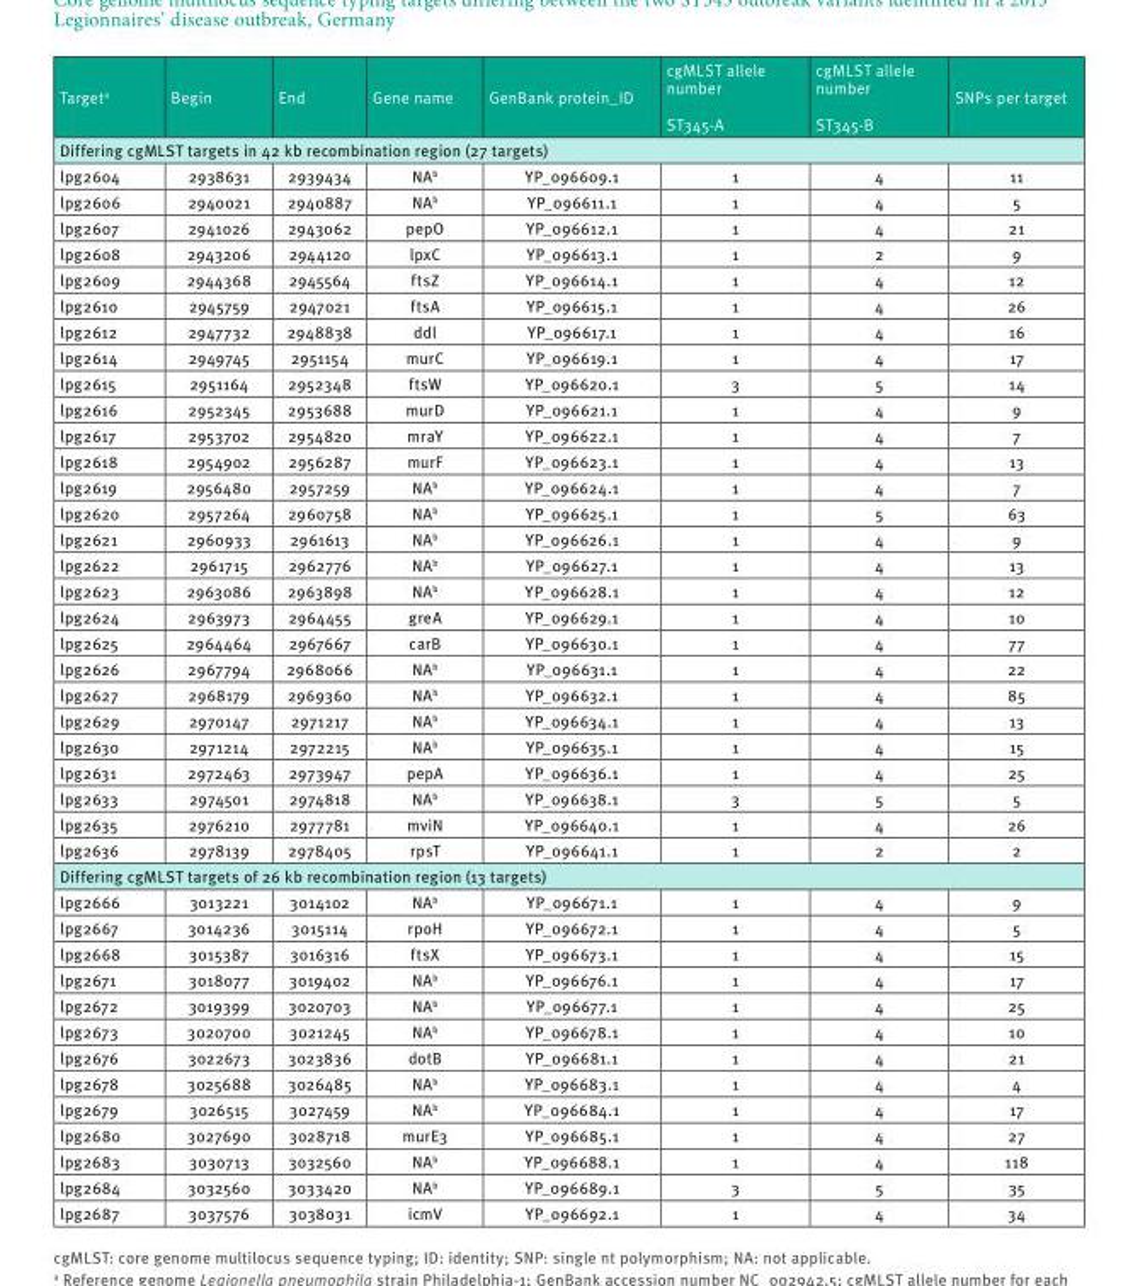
<table><thead><tr><td>Target<sup>a</sup></td><td>Begin</td><td>End</td><td>Gene name</td><td>GenBank protein_ID</td><td>cgMLST allele number ST345-A</td><td>cgMLST allele number ST345-B</td><td>SNPs per target</td></tr></thead><tbody><tr><td colspan="8">Differing cgMLST targets in 42 kb recombination region (27 targets)</td></tr><tr><td>lpg2604</td><td>2938631</td><td>2939434</td><td>NA<sup>b</sup></td><td>YP_096609.1</td><td>1</td><td>4</td><td>11</td></tr><tr><td>lpg2606</td><td>2940021</td><td>2940887</td><td>NA<sup>b</sup></td><td>YP_096611.1</td><td>1</td><td>4</td><td>5</td></tr><tr><td>lpg2607</td><td>2941026</td><td>2943062</td><td>pepO</td><td>YP_096612.1</td><td>1</td><td>4</td><td>21</td></tr><tr><td>lpg2608</td><td>2943206</td><td>2944120</td><td>lpxC</td><td>YP_096613.1</td><td>1</td><td>2</td><td>9</td></tr><tr><td>lpg2609</td><td>2944368</td><td>2945564</td><td>ftsZ</td><td>YP_096614.1</td><td>1</td><td>4</td><td>12</td></tr><tr><td>lpg2610</td><td>2945759</td><td>2947021</td><td>ftsA</td><td>YP_096615.1</td><td>1</td><td>4</td><td>26</td></tr><tr><td>lpg2612</td><td>2947732</td><td>2948838</td><td>ddl</td><td>YP_096617.1</td><td>1</td><td>4</td><td>16</td></tr><tr><td>lpg2614</td><td>2949745</td><td>2951154</td><td>murC</td><td>YP_096619.1</td><td>1</td><td>4</td><td>17</td></tr><tr><td>lpg2615</td><td>2951164</td><td>2952348</td><td>ftsW</td><td>YP_096620.1</td><td>3</td><td>5</td><td>14</td></tr><tr><td>lpg2616</td><td>2952345</td><td>2953688</td><td>murD</td><td>YP_096621.1</td><td>1</td><td>4</td><td>9</td></tr><tr><td>lpg2617</td><td>2953702</td><td>2954820</td><td>mraY</td><td>YP_096622.1</td><td>1</td><td>4</td><td>7</td></tr><tr><td>lpg2618</td><td>2954902</td><td>2956287</td><td>murF</td><td>YP_096623.1</td><td>1</td><td>4</td><td>13</td></tr><tr><td>lpg2619</td><td>2956480</td><td>2957259</td><td>NA<sup>b</sup></td><td>YP_096624.1</td><td>1</td><td>4</td><td>7</td></tr><tr><td>lpg2620</td><td>2957264</td><td>2960758</td><td>NA<sup>b</sup></td><td>YP_096625.1</td><td>1</td><td>5</td><td>63</td></tr><tr><td>lpg2621</td><td>2960933</td><td>2961613</td><td>NA<sup>b</sup></td><td>YP_096626.1</td><td>1</td><td>4</td><td>9</td></tr><tr><td>lpg2622</td><td>2961715</td><td>2962776</td><td>NA<sup>b</sup></td><td>YP_096627.1</td><td>1</td><td>4</td><td>13</td></tr><tr><td>lpg2623</td><td>2963086</td><td>2963898</td><td>NA<sup>b</sup></td><td>YP_096628.1</td><td>1</td><td>4</td><td>12</td></tr><tr><td>lpg2624</td><td>2963973</td><td>2964455</td><td>greA</td><td>YP_096629.1</td><td>1</td><td>4</td><td>10</td></tr><tr><td>lpg2625</td><td>2964464</td><td>2967667</td><td>carB</td><td>YP_096630.1</td><td>1</td><td>4</td><td>77</td></tr><tr><td>lpg2626</td><td>2967794</td><td>2968066</td><td>NA<sup>b</sup></td><td>YP_096631.1</td><td>1</td><td>4</td><td>22</td></tr><tr><td>lpg2627</td><td>2968179</td><td>2969360</td><td>NA<sup>b</sup></td><td>YP_096632.1</td><td>1</td><td>4</td><td>85</td></tr><tr><td>lpg2629</td><td>2970147</td><td>2971217</td><td>NA<sup>b</sup></td><td>YP_096634.1</td><td>1</td><td>4</td><td>13</td></tr><tr><td>lpg2630</td><td>2971214</td><td>2972215</td><td>NA<sup>b</sup></td><td>YP_096635.1</td><td>1</td><td>4</td><td>15</td></tr><tr><td>lpg2631</td><td>2972463</td><td>2973947</td><td>pepA</td><td>YP_096636.1</td><td>1</td><td>4</td><td>25</td></tr><tr><td>lpg2633</td><td>2974501</td><td>2974818</td><td>NA<sup>b</sup></td><td>YP_096638.1</td><td>3</td><td>5</td><td>5</td></tr><tr><td>lpg2635</td><td>2976210</td><td>2977781</td><td>mviN</td><td>YP_096640.1</td><td>1</td><td>4</td><td>26</td></tr><tr><td>lpg2636</td><td>2978139</td><td>2978405</td><td>rpsT</td><td>YP_096641.1</td><td>1</td><td>2</td><td>2</td></tr><tr><td colspan="8">Differing cgMLST targets of 26 kb recombination region (13 targets)</td></tr><tr><td>lpg2666</td><td>3013221</td><td>3014102</td><td>NA<sup>b</sup></td><td>YP_096671.1</td><td>1</td><td>4</td><td>9</td></tr><tr><td>lpg2667</td><td>3014236</td><td>3015114</td><td>rpoH</td><td>YP_096672.1</td><td>1</td><td>4</td><td>5</td></tr><tr><td>lpg2668</td><td>3015387</td><td>3016316</td><td>ftsX</td><td>YP_096673.1</td><td>1</td><td>4</td><td>15</td></tr><tr><td>lpg2671</td><td>3018077</td><td>3019402</td><td>NA<sup>b</sup></td><td>YP_096676.1</td><td>1</td><td>4</td><td>17</td></tr><tr><td>lpg2672</td><td>3019399</td><td>3020703</td><td>NA<sup>b</sup></td><td>YP_096677.1</td><td>1</td><td>4</td><td>25</td></tr><tr><td>lpg2673</td><td>3020700</td><td>3021245</td><td>NA<sup>b</sup></td><td>YP_096678.1</td><td>1</td><td>4</td><td>10</td></tr><tr><td>lpg2676</td><td>3022673</td><td>3023836</td><td>dotB</td><td>YP_096681.1</td><td>1</td><td>4</td><td>21</td></tr><tr><td>lpg2678</td><td>3025688</td><td>3026485</td><td>NA<sup>b</sup></td><td>YP_096683.1</td><td>1</td><td>4</td><td>4</td></tr><tr><td>lpg2679</td><td>3026515</td><td>3027459</td><td>NA<sup>b</sup></td><td>YP_096684.1</td><td>1</td><td>4</td><td>17</td></tr><tr><td>lpg2680</td><td>3027690</td><td>3028718</td><td>murE3</td><td>YP_096685.1</td><td>1</td><td>4</td><td>27</td></tr><tr><td>lpg2683</td><td>3030713</td><td>3032560</td><td>NA<sup>b</sup></td><td>YP_096688.1</td><td>1</td><td>4</td><td>118</td></tr><tr><td>lpg2684</td><td>3032560</td><td>3033420</td><td>NA<sup>b</sup></td><td>YP_096689.1</td><td>3</td><td>5</td><td>35</td></tr><tr><td>lpg2687</td><td>3037576</td><td>3038031</td><td>icmV</td><td>YP_096692.1</td><td>1</td><td>4</td><td>34</td></tr></tbody></table>